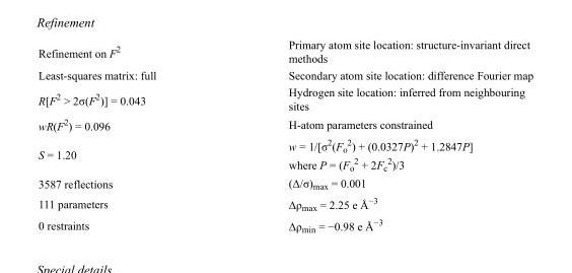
<table><tbody><tr><td>Refinement on F<sup>2</sup></td><td>Primary atom site location: structure-invariant direct methods</td></tr><tr><td>Least-squares matrix: full</td><td>Secondary atom site location: difference Fourier map</td></tr><tr><td>R[F<sup>2</sup> &gt; 2σ(F<sup>2</sup>)] = 0.043</td><td>Hydrogen site location: inferred from neighbouring sites</td></tr><tr><td>wR(F<sup>2</sup>) = 0.096</td><td>H-atom parameters constrained</td></tr><tr><td>S = 1.20</td><td>w = 1/[σ<sup>2</sup>(F<sub>o</sub> <sup>2</sup>) + (0.0327P)<sup>2</sup> + 1.2847P] where P = (F<sub>o</sub> <sup>2</sup> + 2F<sub>c</sub> <sup>2</sup>)/3</td></tr><tr><td>3587 reflections</td><td>(Δ/σ)<sub>max</sub> = 0.001</td></tr><tr><td>111 parameters</td><td>Δρ<sub>max</sub> = 2.25 e Å<sup>−3</sup></td></tr><tr><td>0 restraints</td><td>Δρ<sub>min</sub> = −0.98 e Å<sup>−3</sup></td></tr></tbody></table>